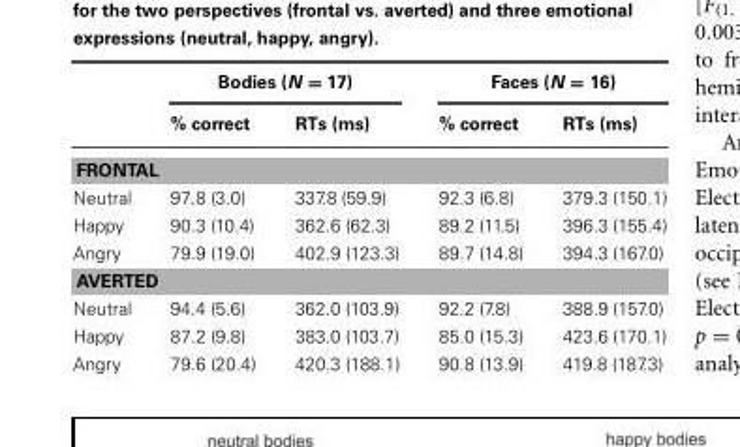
<table><thead><tr><td rowspan="2"></td><td colspan="2">Bodies (N = 17)</td><td colspan="2">Faces (N = 16)</td></tr><tr><td>% correct</td><td>RTs (ms)</td><td>% correct</td><td>RTs (ms)</td></tr></thead><tbody><tr><td colspan="5">FRONTAL</td></tr><tr><td>Neutral</td><td>97.8 (3.0)</td><td>337.8 (59.9)</td><td>92.3 (6.8)</td><td>379.3 (150.1)</td></tr><tr><td>Happy</td><td>90.3 (10.4)</td><td>362.6 (62.3)</td><td>89.2 (11.5)</td><td>396.3 (155.4)</td></tr><tr><td>Angry</td><td>79.9 (19.0)</td><td>402.9 (123.3)</td><td>89.7 (14.8)</td><td>394.3 (167.0)</td></tr><tr><td colspan="5">AVERTED</td></tr><tr><td>Neutral</td><td>94.4 (5.6)</td><td>362.0 (103.9)</td><td>92.2 (7.8)</td><td>388.9 (157.0)</td></tr><tr><td>Happy</td><td>87.2 (9.8)</td><td>383.0 (103.7)</td><td>85.0 (15.3)</td><td>423.6 (170.1)</td></tr><tr><td>Angry</td><td>79.6 (20.4)</td><td>420.3 (188.1)</td><td>90.8 (13.9)</td><td>419.8 (187.3)</td></tr></tbody></table>